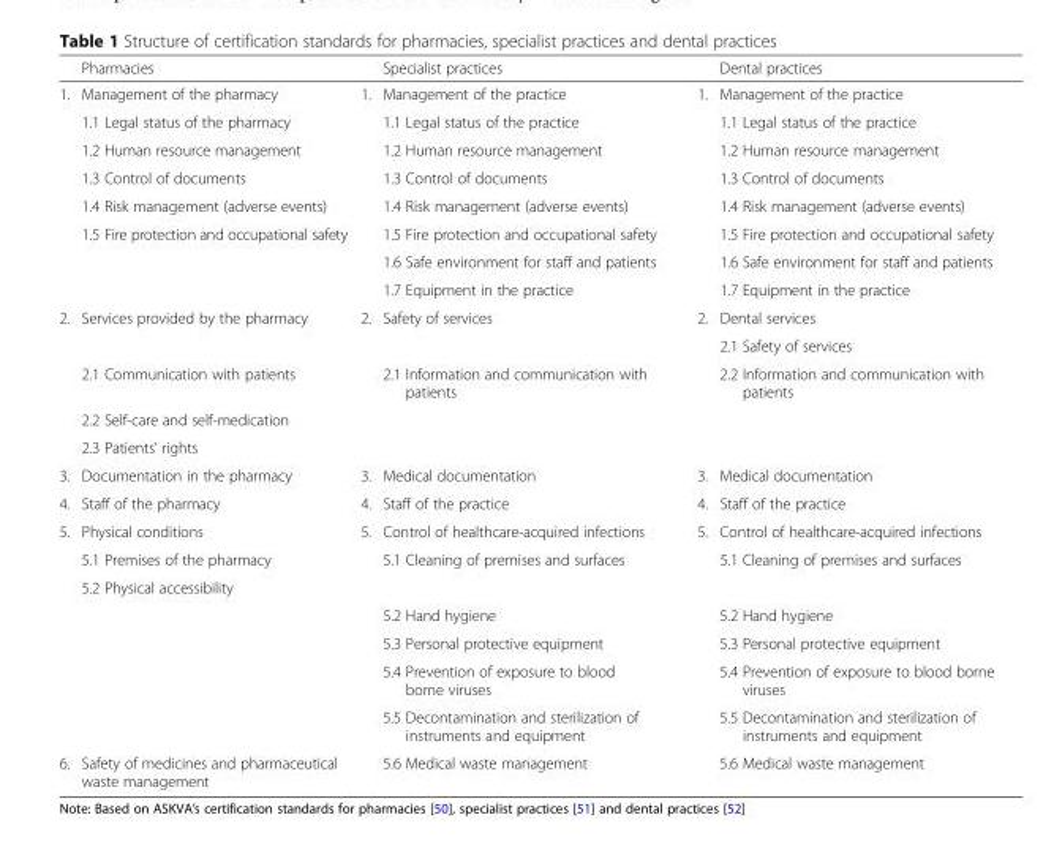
<table><thead><tr><td></td><td>Pharmacies</td><td></td><td>Specialist practices</td><td></td><td>Dental practices</td></tr></thead><tbody><tr><td rowspan="8">1.</td><td>Management of the pharmacy</td><td>1.</td><td>Management of the practice</td><td>1.</td><td>Management of the practice</td></tr><tr><td>1.1 Legal status of the pharmacy</td><td></td><td>1.1 Legal status of the practice</td><td></td><td>1.1 Legal status of the practice</td></tr><tr><td>1.2 Human resource management</td><td></td><td>1.2 Human resource management</td><td></td><td>1.2 Human resource management</td></tr><tr><td>1.3 Control of documents</td><td></td><td>1.3 Control of documents</td><td></td><td>1.3 Control of documents</td></tr><tr><td>1.4 Risk management (adverse events)</td><td></td><td>1.4 Risk management (adverse events)</td><td></td><td>1.4 Risk management (adverse events)</td></tr><tr><td>1.5 Fire protection and occupational safety</td><td></td><td>1.5 Fire protection and occupational safety</td><td></td><td>1.5 Fire protection and occupational safety</td></tr><tr><td></td><td></td><td>1.6 Safe environment for staff and patients</td><td></td><td>1.6 Safe environment for staff and patients</td></tr><tr><td></td><td></td><td>1.7 Equipment in the practice</td><td></td><td>1.7 Equipment in the practice</td></tr><tr><td rowspan="5">2.</td><td>Services provided by the pharmacy</td><td>2.</td><td>Safety of services</td><td>2.</td><td>Dental services</td></tr><tr><td></td><td></td><td></td><td></td><td>2.1 Safety of services</td></tr><tr><td>2.1 Communication with patients</td><td></td><td>2.1 Information and communication with patients</td><td></td><td>2.2 Information and communication with patients</td></tr><tr><td>2.2 Self-care and self-medication</td><td></td><td></td><td></td><td></td></tr><tr><td>2.3 Patients’ rights</td><td></td><td></td><td></td><td></td></tr><tr><td>3.</td><td>Documentation in the pharmacy</td><td>3.</td><td>Medical documentation</td><td>3.</td><td>Medical documentation</td></tr><tr><td>4.</td><td>Staff of the pharmacy</td><td>4.</td><td>Staff of the practice</td><td>4.</td><td>Staff of the practice</td></tr><tr><td rowspan="7">5.</td><td>Physical conditions</td><td>5.</td><td>Control of healthcare-acquired infections</td><td>5.</td><td>Control of healthcare-acquired infections</td></tr><tr><td>5.1 Premises of the pharmacy</td><td></td><td>5.1 Cleaning of premises and surfaces</td><td></td><td>5.1 Cleaning of premises and surfaces</td></tr><tr><td>5.2 Physical accessibility</td><td></td><td></td><td></td><td></td></tr><tr><td></td><td></td><td>5.2 Hand hygiene</td><td></td><td>5.2 Hand hygiene</td></tr><tr><td></td><td></td><td>5.3 Personal protective equipment</td><td></td><td>5.3 Personal protective equipment</td></tr><tr><td></td><td></td><td>5.4 Prevention of exposure to blood borne viruses</td><td></td><td>5.4 Prevention of exposure to blood borne viruses</td></tr><tr><td></td><td></td><td>5.5 Decontamination and sterilization of instruments and equipment</td><td></td><td>5.5 Decontamination and sterilization of instruments and equipment</td></tr><tr><td>6.</td><td>Safety of medicines and pharmaceutical waste management</td><td></td><td>5.6 Medical waste management</td><td></td><td>5.6 Medical waste management</td></tr></tbody></table>